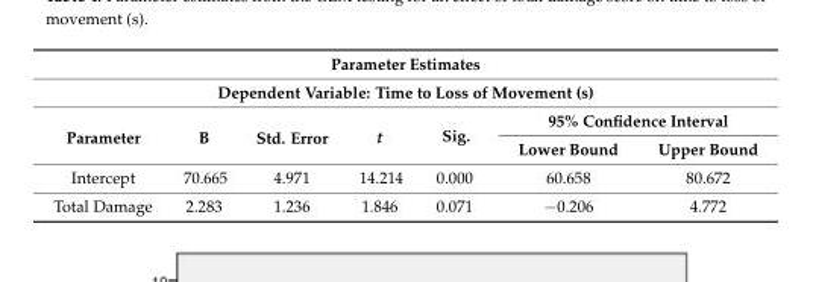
<table><thead><tr><td rowspan="2" colspan="7">Parameter Estimates Dependent Variable: Time to Loss of Movement (s)</td></tr><tr></tr><tr><td rowspan="2">Parameter</td><td rowspan="2">B</td><td rowspan="2">Std. Error</td><td rowspan="2">t</td><td rowspan="2">Sig.</td><td colspan="2">95% Confidence Interval</td></tr><tr><td>Lower Bound</td><td>Upper Bound</td></tr></thead><tbody><tr><td>Intercept</td><td>70.665</td><td>4.971</td><td>14.214</td><td>0.000</td><td>60.658</td><td>80.672</td></tr><tr><td>Total Damage</td><td>2.283</td><td>1.236</td><td>1.846</td><td>0.071</td><td>−0.206</td><td>4.772</td></tr></tbody></table>